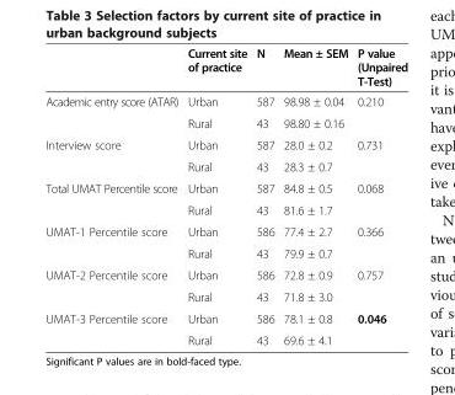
<table><thead><tr><td></td><td>Current site of practice</td><td>N</td><td>Mean ± SEM</td><td>P value (Unpaired T-Test)</td></tr></thead><tbody><tr><td rowspan="2">Academic entry score (ATAR)</td><td>Urban</td><td>587</td><td>98.98 ± 0.04</td><td>0.210</td></tr><tr><td>Rural</td><td>43</td><td>98.80 ± 0.16</td><td></td></tr><tr><td rowspan="2">Interview score</td><td>Urban</td><td>587</td><td>28.0 ± 0.2</td><td>0.731</td></tr><tr><td>Rural</td><td>43</td><td>28.3 ± 0.7</td><td></td></tr><tr><td rowspan="2">Total UMAT Percentile score</td><td>Urban</td><td>587</td><td>84.8 ± 0.5</td><td>0.068</td></tr><tr><td>Rural</td><td>43</td><td>81.6 ± 1.7</td><td></td></tr><tr><td rowspan="2">UMAT-1 Percentile score</td><td>Urban</td><td>586</td><td>77.4 ± 2.7</td><td>0.366</td></tr><tr><td>Rural</td><td>43</td><td>79.9 ± 0.7</td><td></td></tr><tr><td rowspan="2">UMAT-2 Percentile score</td><td>Urban</td><td>586</td><td>72.8 ± 0.9</td><td>0.757</td></tr><tr><td>Rural</td><td>43</td><td>71.8 ± 3.0</td><td></td></tr><tr><td rowspan="2">UMAT-3 Percentile score</td><td>Urban</td><td>586</td><td>78.1 ± 0.8</td><td>0.046</td></tr><tr><td>Rural</td><td>43</td><td>69.6 ± 4.1</td><td></td></tr></tbody></table>